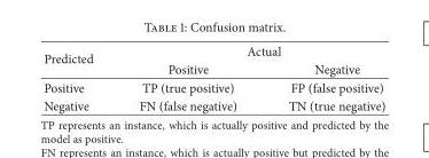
<table><thead><tr><td rowspan="2">Predicted</td><td colspan="2">Actual</td></tr><tr><td>Positive</td><td>Negative</td></tr></thead><tbody><tr><td>Positive</td><td>TP (true positive)</td><td>FP (false positive)</td></tr><tr><td>Negative</td><td>FN (false negative)</td><td>TN (true negative)</td></tr></tbody></table>